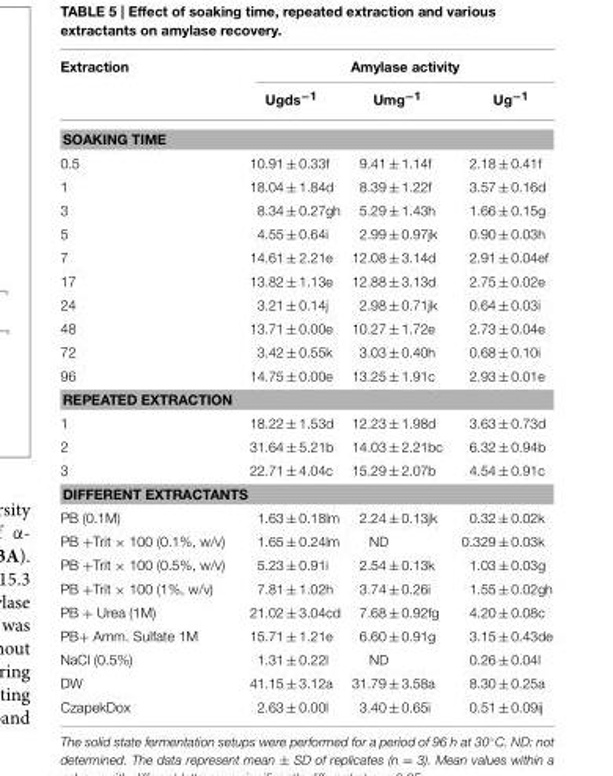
<table><thead><tr><td rowspan="2">Extraction</td><td colspan="3">Amylase activity</td></tr><tr><td>Ugds<sup>−1</sup></td><td>Umg<sup>−1</sup></td><td>Ug<sup>−1</sup></td></tr></thead><tbody><tr><td colspan="4">SOAKING TIME</td></tr><tr><td>0.5</td><td>10.91 ± 0.33f</td><td>9.41 ± 1.14f</td><td>2.18 ± 0.41f</td></tr><tr><td>1</td><td>18.04 ± 1.84d</td><td>8.39 ± 1.22f</td><td>3.57 ± 0.16d</td></tr><tr><td>3</td><td>8.34 ± 0.27gh</td><td>5.29 ± 1.43h</td><td>1.66 ± 0.15g</td></tr><tr><td>5</td><td>4.55 ± 0.64i</td><td>2.99 ± 0.97jk</td><td>0.90 ± 0.03h</td></tr><tr><td>7</td><td>14.61 ± 2.21e</td><td>12.08 ± 3.14d</td><td>2.91 ± 0.04ef</td></tr><tr><td>17</td><td>13.82 ± 1.13e</td><td>12.88 ± 3.13d</td><td>2.75 ± 0.02e</td></tr><tr><td>24</td><td>3.21 ± 0.14j</td><td>2.98 ± 0.71jk</td><td>0.64 ± 0.03i</td></tr><tr><td>48</td><td>13.71 ± 0.00e</td><td>10.27 ± 1.72e</td><td>2.73 ± 0.04e</td></tr><tr><td>72</td><td>3.42 ± 0.55k</td><td>3.03 ± 0.40h</td><td>0.68 ± 0.10i</td></tr><tr><td>96</td><td>14.75 ± 0.00e</td><td>13.25 ± 1.91c</td><td>2.93 ± 0.01e</td></tr><tr><td colspan="4">REPEATED EXTRACTION</td></tr><tr><td>1</td><td>18.22 ± 1.53d</td><td>12.23 ± 1.98d</td><td>3.63 ± 0.73d</td></tr><tr><td>2</td><td>31.64 ± 5.21b</td><td>14.03 ± 2.21bc</td><td>6.32 ± 0.94b</td></tr><tr><td>3</td><td>22.71 ± 4.04c</td><td>15.29 ± 2.07b</td><td>4.54 ± 0.91c</td></tr><tr><td colspan="4">DIFFERENT EXTRACTANTS</td></tr><tr><td>PB (0.1M)</td><td>1.63 ± 0.18lm</td><td>2.24 ± 0.13jk</td><td>0.32 ± 0.02k</td></tr><tr><td>PB +Trit × 100 (0.1%, w/v)</td><td>1.65 ± 0.24lm</td><td>ND</td><td>0.329 ± 0.03k</td></tr><tr><td>PB +Trit × 100 (0.5%, w/v)</td><td>5.23 ± 0.91i</td><td>2.54 ± 0.13k</td><td>1.03 ± 0.03g</td></tr><tr><td>PB +Trit × 100 (1%, w/v)</td><td>7.81 ± 1.02h</td><td>3.74 ± 0.26i</td><td>1.55 ± 0.02gh</td></tr><tr><td>PB + Urea (1M)</td><td>21.02 ± 3.04cd</td><td>7.68 ± 0.92fg</td><td>4.20 ± 0.08c</td></tr><tr><td>PB+ Amm. Sulfate 1M</td><td>15.71 ± 1.21e</td><td>6.60 ± 0.91g</td><td>3.15 ± 0.43de</td></tr><tr><td>NaCl (0.5%)</td><td>1.31 ± 0.22l</td><td>ND</td><td>0.26 ± 0.04l</td></tr><tr><td>DW</td><td>41.15 ± 3.12a</td><td>31.79 ± 3.58a</td><td>8.30 ± 0.25a</td></tr><tr><td>CzapekDox</td><td>2.63 ± 0.00l</td><td>3.40 ± 0.65i</td><td>0.51 ± 0.09ij</td></tr></tbody></table>